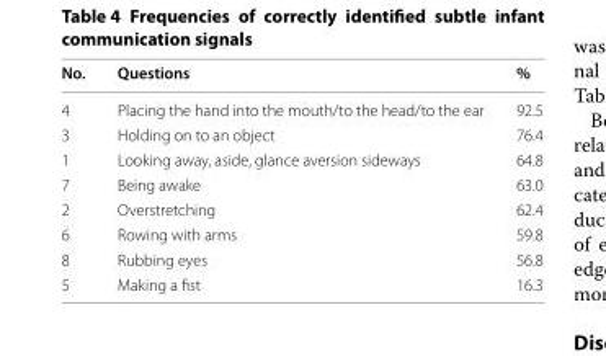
<table><thead><tr><td>No.</td><td>Questions</td><td>%</td></tr></thead><tbody><tr><td>4</td><td>Placing the hand into the mouth/to the head/to the ear</td><td>92.5</td></tr><tr><td>3</td><td>Holding on to an object</td><td>76.4</td></tr><tr><td>1</td><td>Looking away, aside, glance aversion sideways</td><td>64.8</td></tr><tr><td>7</td><td>Being awake</td><td>63.0</td></tr><tr><td>2</td><td>Overstretching</td><td>62.4</td></tr><tr><td>6</td><td>Rowing with arms</td><td>59.8</td></tr><tr><td>8</td><td>Rubbing eyes</td><td>56.8</td></tr><tr><td>5</td><td>Making a fist</td><td>16.3</td></tr></tbody></table>